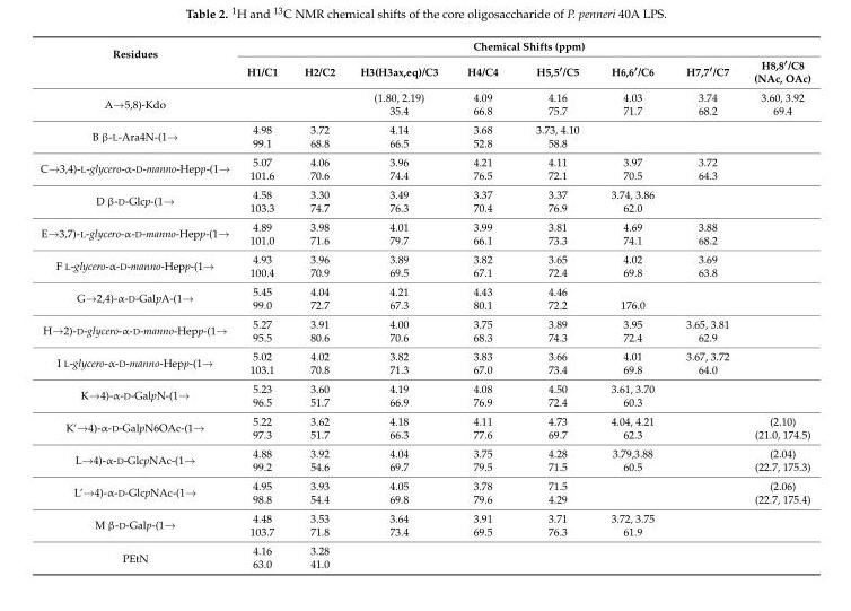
<table><thead><tr><td rowspan="2">Residues</td><td colspan="8">Chemical Shifts (ppm)</td></tr><tr><td>H1/C1</td><td>H2/C2</td><td>H3(H3ax,eq)/C3</td><td>H4/C4</td><td>H5,5′/C5</td><td>H6,6′/C6</td><td>H7,7′/C7</td><td>H8,8′/C8 (NAc, OAc)</td></tr></thead><tbody><tr><td rowspan="2">A→5,8)-Kdo</td><td rowspan="2"></td><td rowspan="2"></td><td>(1.80, 2.19)</td><td>4.09</td><td>4.16</td><td>4.03</td><td>3.74</td><td>3.60, 3.92</td></tr><tr><td>35.4</td><td>66.8</td><td>75.7</td><td>71.7</td><td>68.2</td><td>69.4</td></tr><tr><td rowspan="2">B β-L-Ara4N-(1→</td><td>4.98</td><td>3.72</td><td>4.14</td><td>3.68</td><td>3.73, 4.10</td><td rowspan="2"></td><td rowspan="2"></td><td rowspan="2"></td></tr><tr><td>99.1</td><td>68.8</td><td>66.5</td><td>52.8</td><td>58.8</td></tr><tr><td rowspan="2">C→3,4)-L-glycero-α-D-manno-Hepp-(1→</td><td>5.07</td><td>4.06</td><td>3.96</td><td>4.21</td><td>4.11</td><td>3.97</td><td>3.72</td><td rowspan="2"></td></tr><tr><td>101.6</td><td>70.6</td><td>74.4</td><td>76.5</td><td>72.1</td><td>70.5</td><td>64.3</td></tr><tr><td rowspan="2">D β-D-Glcp-(1→</td><td>4.58</td><td>3.30</td><td>3.49</td><td>3.37</td><td>3.37</td><td>3.74, 3.86</td><td rowspan="2"></td><td rowspan="2"></td></tr><tr><td>103.3</td><td>74.7</td><td>76.3</td><td>70.4</td><td>76.9</td><td>62.0</td></tr><tr><td rowspan="2">E→3,7)-L-glycero-α-D-manno-Hepp-(1→</td><td>4.89</td><td>3.98</td><td>4.01</td><td>3.99</td><td>3.81</td><td>4.69</td><td>3.88</td><td rowspan="2"></td></tr><tr><td>101.0</td><td>71.6</td><td>79.7</td><td>66.1</td><td>73.3</td><td>74.1</td><td>68.2</td></tr><tr><td rowspan="2">F L-glycero-α-D-manno-Hepp-(1→</td><td>4.93</td><td>3.96</td><td>3.89</td><td>3.82</td><td>3.65</td><td>4.02</td><td>3.69</td><td rowspan="2"></td></tr><tr><td>100.4</td><td>70.9</td><td>69.5</td><td>67.1</td><td>72.4</td><td>69.8</td><td>63.8</td></tr><tr><td rowspan="2">G→2,4)-α-D-GalpA-(1→</td><td>5.45</td><td>4.04</td><td>4.21</td><td>4.43</td><td>4.46</td><td></td><td></td><td rowspan="2"></td></tr><tr><td>99.0</td><td>72.7</td><td>67.3</td><td>80.1</td><td>72.2</td><td>176.0</td><td></td></tr><tr><td rowspan="2">H→2)-D-glycero-α-D-manno-Hepp-(1→</td><td>5.27</td><td>3.91</td><td>4.00</td><td>3.75</td><td>3.89</td><td>3.95</td><td>3.65, 3.81</td><td rowspan="2"></td></tr><tr><td>95.5</td><td>80.6</td><td>70.6</td><td>68.3</td><td>74.3</td><td>72.4</td><td>62.9</td></tr><tr><td rowspan="2">I L-glycero-α-D-manno-Hepp-(1→</td><td>5.02</td><td>4.02</td><td>3.82</td><td>3.83</td><td>3.66</td><td>4.01</td><td>3.67, 3.72</td><td rowspan="2"></td></tr><tr><td>103.1</td><td>70.8</td><td>71.3</td><td>67.0</td><td>73.4</td><td>69.8</td><td>64.0</td></tr><tr><td rowspan="2">K→4)-α-D-GalpN-(1→</td><td>5.23</td><td>3.60</td><td>4.19</td><td>4.08</td><td>4.50</td><td>3.61, 3.70</td><td rowspan="2"></td><td rowspan="2"></td></tr><tr><td>96.5</td><td>51.7</td><td>66.9</td><td>76.9</td><td>72.4</td><td>60.3</td></tr><tr><td rowspan="2">K’→4)-α-D-GalpN6OAc-(1→</td><td>5.22</td><td>3.62</td><td>4.18</td><td>4.11</td><td>4.73</td><td>4.04, 4.21</td><td></td><td>(2.10)</td></tr><tr><td>97.3</td><td>51.7</td><td>66.3</td><td>77.6</td><td>69.7</td><td>62.3</td><td></td><td>(21.0, 174.5)</td></tr><tr><td rowspan="2">L→4)-α-D-GlcpNAc-(1→</td><td>4.88</td><td>3.92</td><td>4.04</td><td>3.75</td><td>4.28</td><td>3.79,3.88</td><td></td><td>(2.04)</td></tr><tr><td>99.2</td><td>54.6</td><td>69.7</td><td>79.5</td><td>71.5</td><td>60.5</td><td></td><td>(22.7, 175.3)</td></tr><tr><td rowspan="2">L’→4)-α-D-GlcpNAc-(1→</td><td>4.95</td><td>3.93</td><td>4.05</td><td>3.78</td><td>71.5</td><td></td><td></td><td>(2.06)</td></tr><tr><td>98.8</td><td>54.4</td><td>69.8</td><td>79.6</td><td>4.29</td><td></td><td></td><td>(22.7, 175.4)</td></tr><tr><td rowspan="2">M β-D-Galp-(1→</td><td>4.48</td><td>3.53</td><td>3.64</td><td>3.91</td><td>3.71</td><td>3.72, 3.75</td><td rowspan="2"></td><td rowspan="2"></td></tr><tr><td>103.7</td><td>71.8</td><td>73.4</td><td>69.5</td><td>76.3</td><td>61.9</td></tr><tr><td rowspan="2">PEtN</td><td>4.16</td><td>3.28</td><td rowspan="2"></td><td rowspan="2"></td><td rowspan="2"></td><td rowspan="2"></td><td rowspan="2"></td><td rowspan="2"></td></tr><tr><td>63.0</td><td>41.0</td></tr></tbody></table>